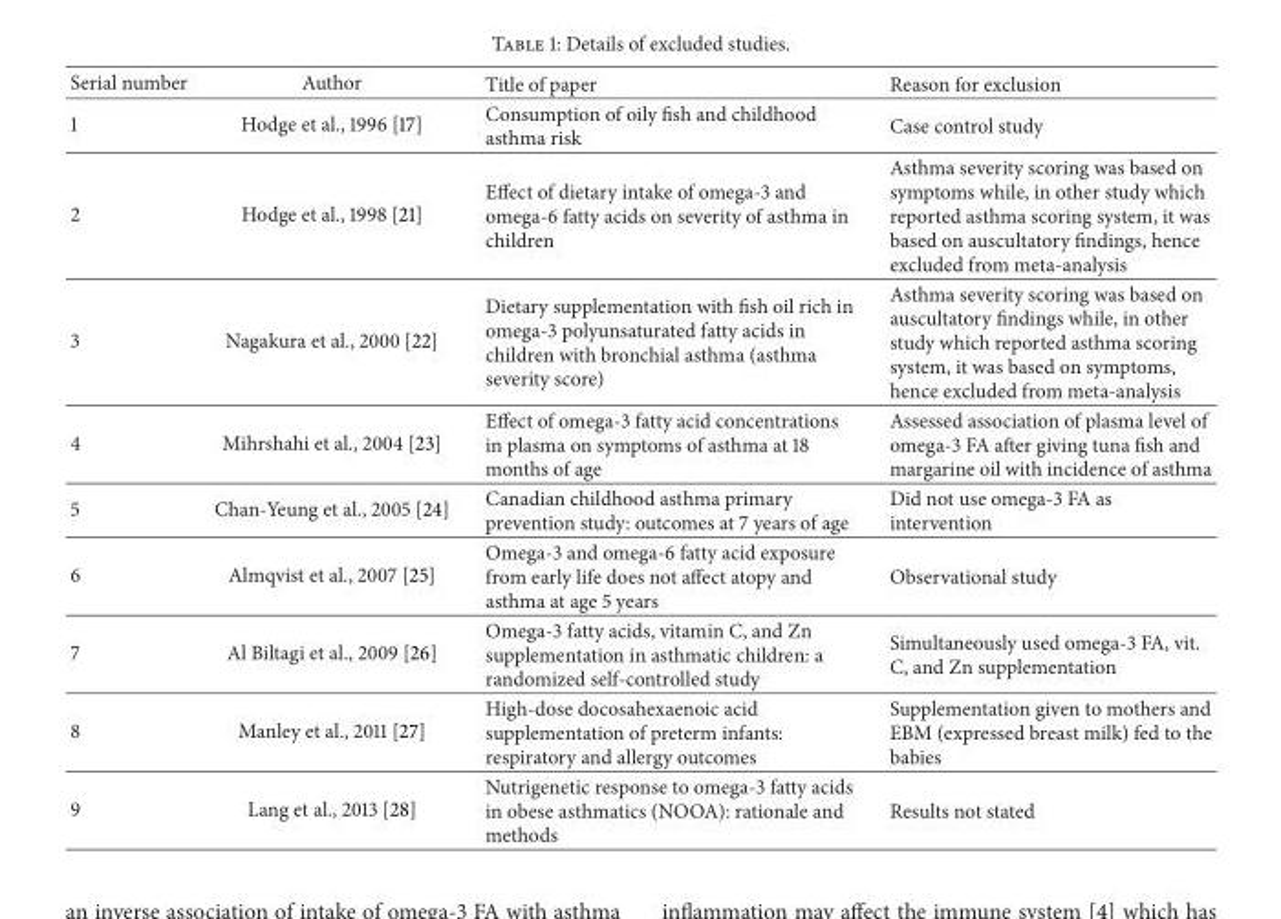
<table><thead><tr><td>Serial number</td><td>Author</td><td>Title of paper</td><td>Reason for exclusion</td></tr></thead><tbody><tr><td>1</td><td>Hodge et al., 1996 [17]</td><td>Consumption of oily fish and childhood asthma risk</td><td>Case control study</td></tr><tr><td>2</td><td>Hodge et al., 1998 [21]</td><td>Effect of dietary intake of omega-3 and omega-6 fatty acids on severity of asthma in children</td><td>Asthma severity scoring was based on symptoms while, in other study which reported asthma scoring system, it was based on auscultatory findings, hence excluded from meta-analysis</td></tr><tr><td>3</td><td>Nagakura et al., 2000 [22]</td><td>Dietary supplementation with fish oil rich in omega-3 polyunsaturated fatty acids in children with bronchial asthma (asthma severity score)</td><td>Asthma severity scoring was based on auscultatory findings while, in other study which reported asthma scoring system, it was based on symptoms, hence excluded from meta-analysis</td></tr><tr><td>4</td><td>Mihrshahi et al., 2004 [23]</td><td>Effect of omega-3 fatty acid concentrations in plasma on symptoms of asthma at 18 months of age</td><td>Assessed association of plasma level of omega-3 FA after giving tuna fish and margarine oil with incidence of asthma</td></tr><tr><td>5</td><td>Chan-Yeung et al., 2005 [24]</td><td>Canadian childhood asthma primary prevention study: outcomes at 7 years of age</td><td>Did not use omega-3 FA as intervention</td></tr><tr><td>6</td><td>Almqvist et al., 2007 [25]</td><td>Omega-3 and omega-6 fatty acid exposure from early life does not affect atopy and asthma at age 5 years</td><td>Observational study</td></tr><tr><td>7</td><td>Al Biltagi et al., 2009 [26]</td><td>Omega-3 fatty acids, vitamin C, and Zn supplementation in asthmatic children: a randomized self-controlled study</td><td>Simultaneously used omega-3 FA, vit. C, and Zn supplementation</td></tr><tr><td>8</td><td>Manley et al., 2011 [27]</td><td>High-dose docosahexaenoic acid supplementation of preterm infants: respiratory and allergy outcomes</td><td>Supplementation given to mothers and EBM (expressed breast milk) fed to the babies</td></tr><tr><td>9</td><td>Lang et al., 2013 [28]</td><td>Nutrigenetic response to omega-3 fatty acids in obese asthmatics (NOOA): rationale and methods</td><td>Results not stated</td></tr></tbody></table>